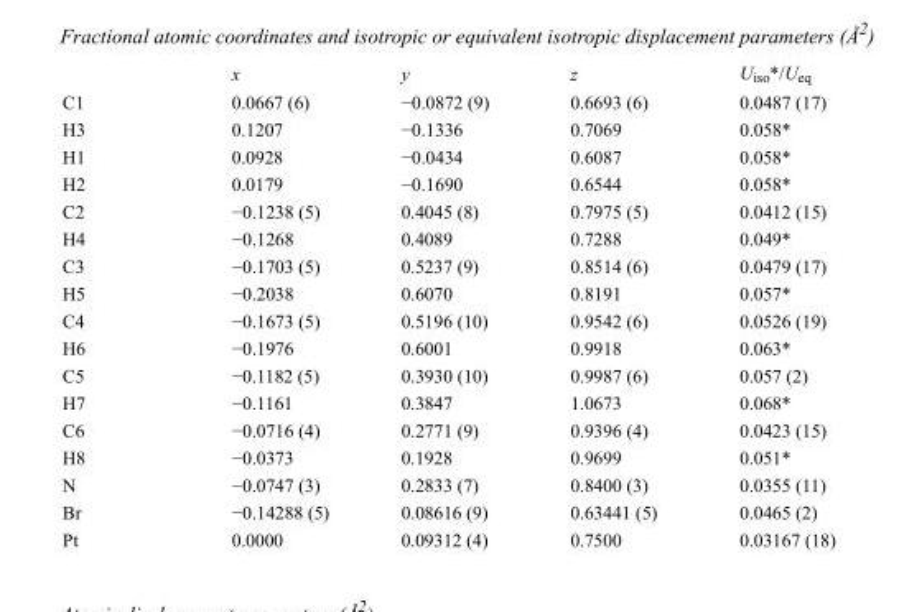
<table><thead><tr><td></td><td>x</td><td>y</td><td>z</td><td>U<sub>iso</sub>*/U<sub>eq</sub></td></tr></thead><tbody><tr><td>C1</td><td>0.0667 (6)</td><td>−0.0872 (9)</td><td>0.6693 (6)</td><td>0.0487 (17)</td></tr><tr><td>H3</td><td>0.1207</td><td>−0.1336</td><td>0.7069</td><td>0.058*</td></tr><tr><td>H1</td><td>0.0928</td><td>−0.0434</td><td>0.6087</td><td>0.058*</td></tr><tr><td>H2</td><td>0.0179</td><td>−0.1690</td><td>0.6544</td><td>0.058*</td></tr><tr><td>C2</td><td>−0.1238 (5)</td><td>0.4045 (8)</td><td>0.7975 (5)</td><td>0.0412 (15)</td></tr><tr><td>H4</td><td>−0.1268</td><td>0.4089</td><td>0.7288</td><td>0.049*</td></tr><tr><td>C3</td><td>−0.1703 (5)</td><td>0.5237 (9)</td><td>0.8514 (6)</td><td>0.0479 (17)</td></tr><tr><td>H5</td><td>−0.2038</td><td>0.6070</td><td>0.8191</td><td>0.057*</td></tr><tr><td>C4</td><td>−0.1673 (5)</td><td>0.5196 (10)</td><td>0.9542 (6)</td><td>0.0526 (19)</td></tr><tr><td>H6</td><td>−0.1976</td><td>0.6001</td><td>0.9918</td><td>0.063*</td></tr><tr><td>C5</td><td>−0.1182 (5)</td><td>0.3930 (10)</td><td>0.9987 (6)</td><td>0.057 (2)</td></tr><tr><td>H7</td><td>−0.1161</td><td>0.3847</td><td>1.0673</td><td>0.068*</td></tr><tr><td>C6</td><td>−0.0716 (4)</td><td>0.2771 (9)</td><td>0.9396 (4)</td><td>0.0423 (15)</td></tr><tr><td>H8</td><td>−0.0373</td><td>0.1928</td><td>0.9699</td><td>0.051*</td></tr><tr><td>N</td><td>−0.0747 (3)</td><td>0.2833 (7)</td><td>0.8400 (3)</td><td>0.0355 (11)</td></tr><tr><td>Br</td><td>−0.14288 (5)</td><td>0.08616 (9)</td><td>0.63441 (5)</td><td>0.0465 (2)</td></tr><tr><td>Pt</td><td>0.0000</td><td>0.09312 (4)</td><td>0.7500</td><td>0.03167 (18)</td></tr></tbody></table>